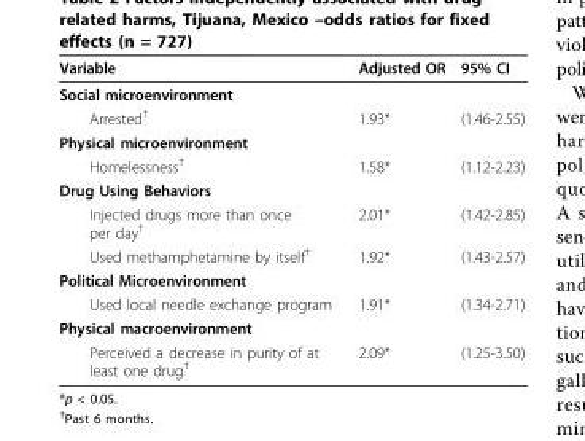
<table><thead><tr><td>Variable</td><td>Adjusted OR</td><td>95% CI</td></tr></thead><tbody><tr><td colspan="3">Social microenvironment</td></tr><tr><td>Arrested<sup>†</sup></td><td>1.93*</td><td>(1.46-2.55)</td></tr><tr><td colspan="3">Physical microenvironment</td></tr><tr><td>Homelessness<sup>†</sup></td><td>1.58*</td><td>(1.12-2.23)</td></tr><tr><td colspan="3">Drug Using Behaviors</td></tr><tr><td>Injected drugs more than once per day<sup>†</sup></td><td>2.01*</td><td>(1.42-2.85)</td></tr><tr><td>Used methamphetamine by itself<sup>†</sup></td><td>1.92*</td><td>(1.43-2.57)</td></tr><tr><td colspan="3">Political Microenvironment</td></tr><tr><td>Used local needle exchange program</td><td>1.91*</td><td>(1.34-2.71)</td></tr><tr><td colspan="3">Physical macroenvironment</td></tr><tr><td>Perceived a decrease in purity of at least one drug<sup>†</sup></td><td>2.09*</td><td>(1.25-3.50)</td></tr></tbody></table>